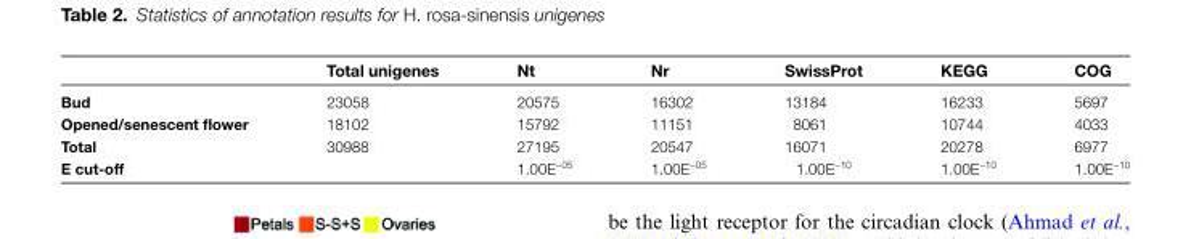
<table><thead><tr><td></td><td>Total unigenes</td><td>Nt</td><td>Nr</td><td>SwissProt</td><td>KEGG</td><td>COG</td></tr></thead><tbody><tr><td>Bud</td><td>23058</td><td>20575</td><td>16302</td><td>13184</td><td>16233</td><td>5697</td></tr><tr><td>Opened/senescent flower</td><td>18102</td><td>15792</td><td>11151</td><td>8061</td><td>10744</td><td>4033</td></tr><tr><td>Total</td><td>30988</td><td>27195</td><td>20547</td><td>16071</td><td>20278</td><td>6977</td></tr><tr><td>E cut-off</td><td></td><td>1.00E<sup>−05</sup></td><td>1.00E<sup>−05</sup></td><td>1.00E<sup>−10</sup></td><td>1.00E<sup>−10</sup></td><td>1.00E<sup>−10</sup></td></tr></tbody></table>